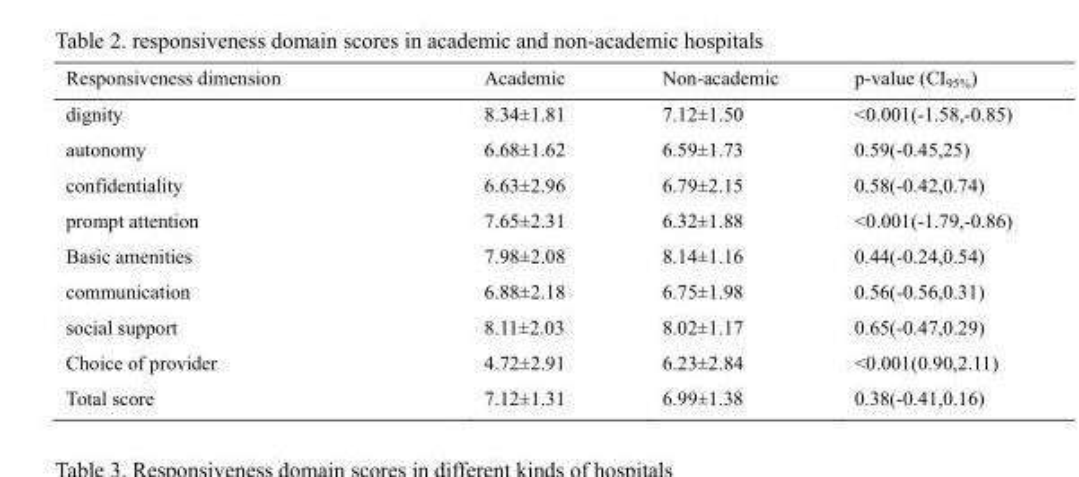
<table><thead><tr><td>Responsiveness dimension</td><td>Academic</td><td>Non-academic</td><td>p-value (CI<sub>95%</sub>)</td></tr></thead><tbody><tr><td>dignity</td><td>8.34±1.81</td><td>7.12±1.50</td><td>&lt;0.001(-1.58,-0.85)</td></tr><tr><td>autonomy</td><td>6.68±1.62</td><td>6.59±1.73</td><td>0.59(-0.45,25)</td></tr><tr><td>confidentiality</td><td>6.63±2.96</td><td>6.79±2.15</td><td>0.58(-0.42,0.74)</td></tr><tr><td>prompt attention</td><td>7.65±2.31</td><td>6.32±1.88</td><td>&lt;0.001(-1.79,-0.86)</td></tr><tr><td>Basic amenities</td><td>7.98±2.08</td><td>8.14±1.16</td><td>0.44(-0.24,0.54)</td></tr><tr><td>communication</td><td>6.88±2.18</td><td>6.75±1.98</td><td>0.56(-0.56,0.31)</td></tr><tr><td>social support</td><td>8.11±2.03</td><td>8.02±1.17</td><td>0.65(-0.47,0.29)</td></tr><tr><td>Choice of provider</td><td>4.72±2.91</td><td>6.23±2.84</td><td>&lt;0.001(0.90,2.11)</td></tr><tr><td>Total score</td><td>7.12±1.31</td><td>6.99±1.38</td><td>0.38(-0.41,0.16)</td></tr></tbody></table>